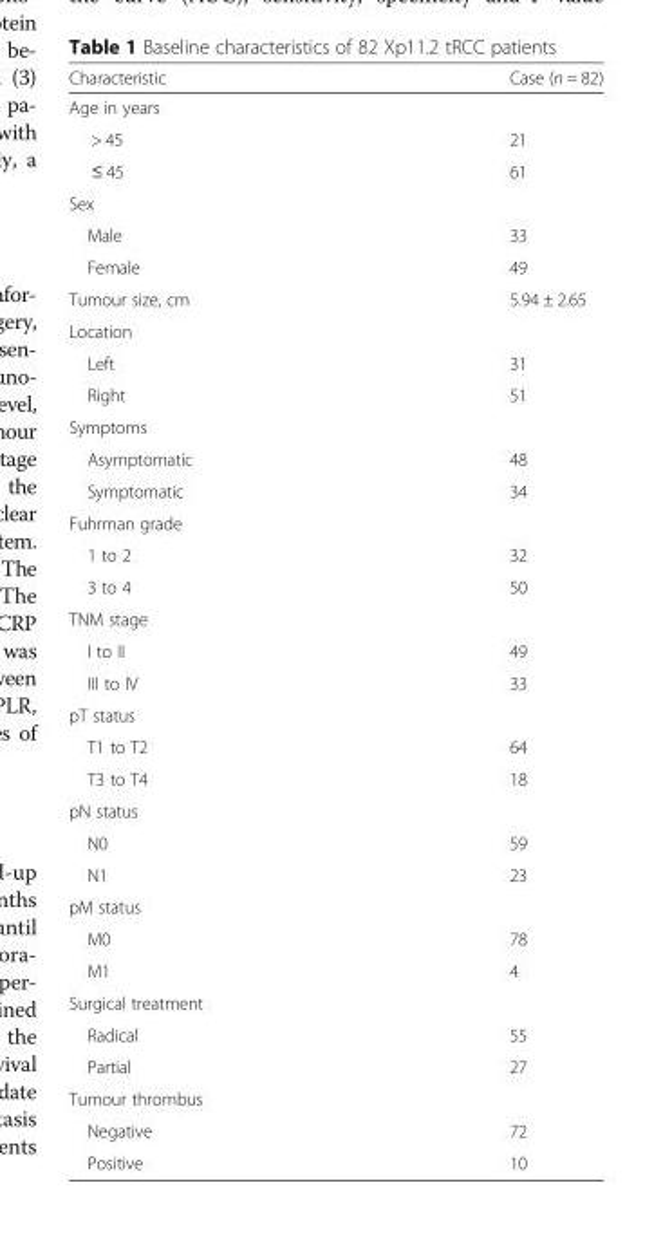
<table><thead><tr><td>Characteristic</td><td>Case (n = 82)</td></tr></thead><tbody><tr><td colspan="2">Age in years</td></tr><tr><td>&gt; 45</td><td>21</td></tr><tr><td>≤ 45</td><td>61</td></tr><tr><td colspan="2">Sex</td></tr><tr><td>Male</td><td>33</td></tr><tr><td>Female</td><td>49</td></tr><tr><td>Tumour size, cm</td><td>5.94 ± 2.65</td></tr><tr><td colspan="2">Location</td></tr><tr><td>Left</td><td>31</td></tr><tr><td>Right</td><td>51</td></tr><tr><td colspan="2">Symptoms</td></tr><tr><td>Asymptomatic</td><td>48</td></tr><tr><td>Symptomatic</td><td>34</td></tr><tr><td colspan="2">Fuhrman grade</td></tr><tr><td>1 to 2</td><td>32</td></tr><tr><td>3 to 4</td><td>50</td></tr><tr><td colspan="2">TNM stage</td></tr><tr><td>I to II</td><td>49</td></tr><tr><td>III to IV</td><td>33</td></tr><tr><td colspan="2">pT status</td></tr><tr><td>T1 to T2</td><td>64</td></tr><tr><td>T3 to T4</td><td>18</td></tr><tr><td colspan="2">pN status</td></tr><tr><td>N0</td><td>59</td></tr><tr><td>N1</td><td>23</td></tr><tr><td colspan="2">pM status</td></tr><tr><td>M0</td><td>78</td></tr><tr><td>M1</td><td>4</td></tr><tr><td colspan="2">Surgical treatment</td></tr><tr><td>Radical</td><td>55</td></tr><tr><td>Partial</td><td>27</td></tr><tr><td colspan="2">Tumour thrombus</td></tr><tr><td>Negative</td><td>72</td></tr><tr><td>Positive</td><td>10</td></tr></tbody></table>